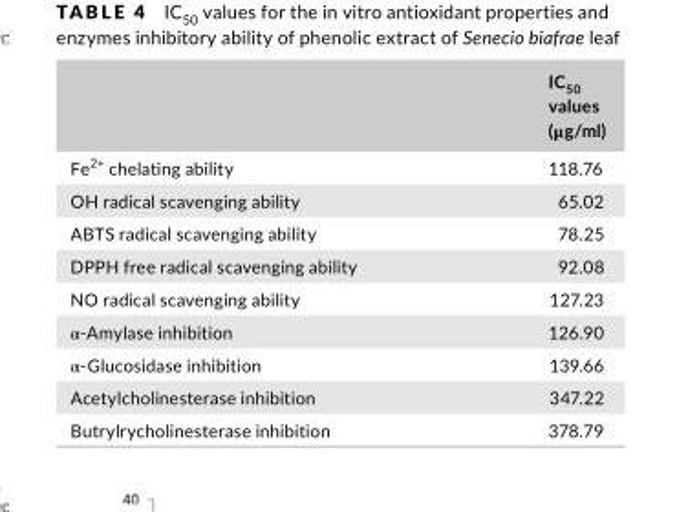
<table><thead><tr><td></td><td>IC<sub>50</sub> values (μg/ml)</td></tr></thead><tbody><tr><td>Fe<sup>2+</sup> chelating ability</td><td>118.76</td></tr><tr><td>OH radical scavenging ability</td><td>65.02</td></tr><tr><td>ABTS radical scavenging ability</td><td>78.25</td></tr><tr><td>DPPH free radical scavenging ability</td><td>92.08</td></tr><tr><td>NO radical scavenging ability</td><td>127.23</td></tr><tr><td>α- Amylase inhibition</td><td>126.90</td></tr><tr><td>α- Glucosidase inhibition</td><td>139.66</td></tr><tr><td>Acetylcholinesterase inhibition</td><td>347.22</td></tr><tr><td>Butrylrycholinesterase inhibition</td><td>378.79</td></tr></tbody></table>